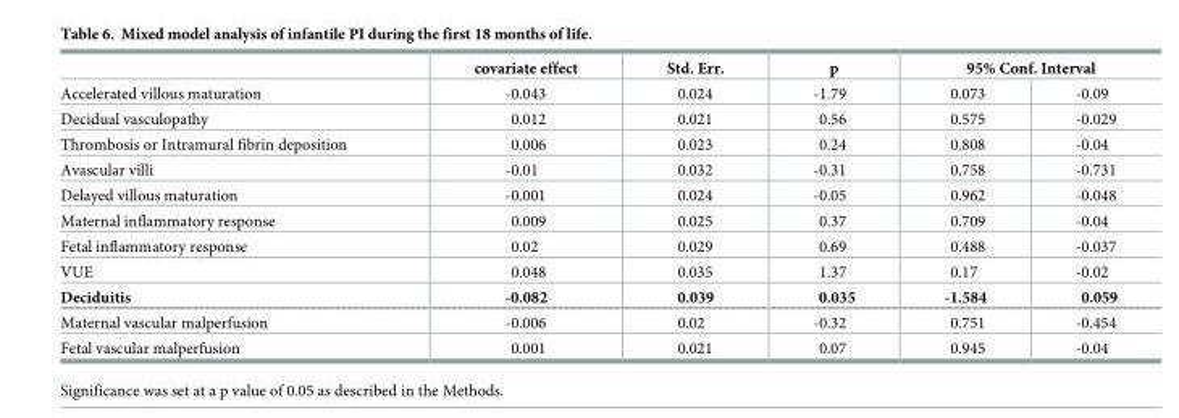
<table><thead><tr><td rowspan="2">Accelerated villous maturation</td><td rowspan="2">covariate effect -0.043</td><td rowspan="2">Std. Err. 0.024</td><td rowspan="2">p -1.79</td><td colspan="2">95% Conf. Interval</td></tr><tr><td>0.073</td><td>-0.09</td></tr></thead><tbody><tr><td>Decidual vasculopathy</td><td>0.012</td><td>0.021</td><td>0.56</td><td>0.575</td><td>-0.029</td></tr><tr><td>Thrombosis or Intramural fibrin deposition</td><td>0.006</td><td>0.023</td><td>0.24</td><td>0.808</td><td>-0.04</td></tr><tr><td>Avascular villi</td><td>-0.01</td><td>0.032</td><td>-0.31</td><td>0.758</td><td>-0.731</td></tr><tr><td>Delayed villous maturation</td><td>-0.001</td><td>0.024</td><td>-0.05</td><td>0.962</td><td>-0.048</td></tr><tr><td>Maternal inflammatory response</td><td>0.009</td><td>0.025</td><td>0.37</td><td>0.709</td><td>-0.04</td></tr><tr><td>Fetal inflammatory response</td><td>0.02</td><td>0.029</td><td>0.69</td><td>0.488</td><td>-0.037</td></tr><tr><td>VUE</td><td>0.048</td><td>0.035</td><td>1.37</td><td>0.17</td><td>-0.02</td></tr><tr><td>Deciduitis</td><td>-0.082</td><td>0.039</td><td>0.035</td><td>-1.584</td><td>0.059</td></tr><tr><td>Maternal vascular malperfusion</td><td>-0.006</td><td>0.02</td><td>-0.32</td><td>0.751</td><td>-0.454</td></tr><tr><td>Fetal vascular malperfusion</td><td>0.001</td><td>0.021</td><td>0.07</td><td>0.945</td><td>-0.04</td></tr></tbody></table>